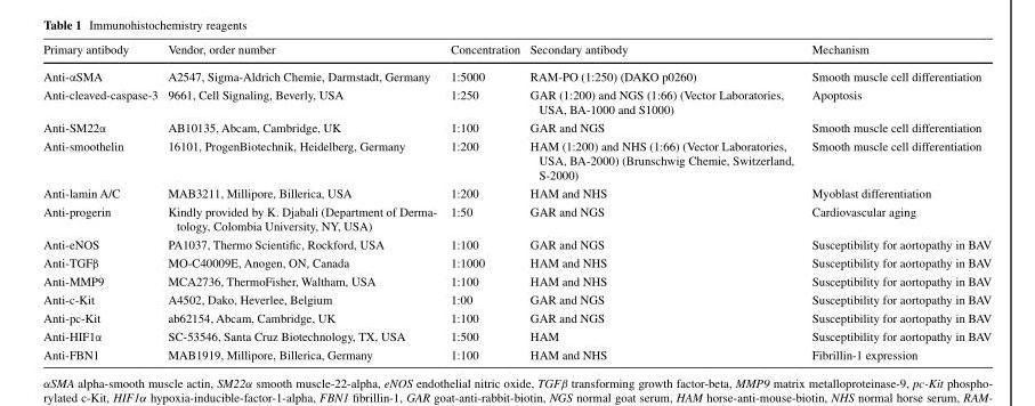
<table><thead><tr><td>Primary antibody</td><td>Vendor, order number</td><td>Concentration</td><td>Secondary antibody</td><td>Mechanism</td></tr></thead><tbody><tr><td>Anti-αSMA</td><td>A2547, Sigma-Aldrich Chemie, Darmstadt, Germany</td><td>1:5000</td><td>RAM-PO (1:250) (DAKO p0260)</td><td>Smooth muscle cell differentiation</td></tr><tr><td>Anti-cleaved-caspase-3</td><td>9661, Cell Signaling, Beverly, USA</td><td>1:250</td><td>GAR (1:200) and NGS (1:66) (Vector Laboratories, USA, BA-1000 and S1000)</td><td>Apoptosis</td></tr><tr><td>Anti-SM22α</td><td>AB10135, Abcam, Cambridge, UK</td><td>1:100</td><td>GAR and NGS</td><td>Smooth muscle cell differentiation</td></tr><tr><td>Anti-smoothelin</td><td>16101, ProgenBiotechnik, Heidelberg, Germany</td><td>1:200</td><td>HAM (1:200) and NHS (1:66) (Vector Laboratories, USA, BA-2000) (Brunschwig Chemie, Switzerland, S-2000)</td><td>Smooth muscle cell differentiation</td></tr><tr><td>Anti-lamin A/C</td><td>MAB3211, Millipore, Billerica, USA</td><td>1:200</td><td>HAM and NHS</td><td>Myoblast differentiation</td></tr><tr><td>Anti-progerin</td><td>Kindly provided by K. Djabali (Department of Derma- tology, Colombia University, NY, USA)</td><td>1:50</td><td>GAR and NGS</td><td>Cardiovascular aging</td></tr><tr><td>Anti-eNOS</td><td>PA1037, Thermo Scientific, Rockford, USA</td><td>1:100</td><td>GAR and NGS</td><td>Susceptibility for aortopathy in BAV</td></tr><tr><td>Anti-TGFβ</td><td>MO-C40009E, Anogen, ON, Canada</td><td>1:1000</td><td>HAM and NHS</td><td>Susceptibility for aortopathy in BAV</td></tr><tr><td>Anti-MMP9</td><td>MCA2736, ThermoFisher, Waltham, USA</td><td>1:100</td><td>HAM and NHS</td><td>Susceptibility for aortopathy in BAV</td></tr><tr><td>Anti-c-Kit</td><td>A4502, Dako, Heverlee, Belgium</td><td>1:00</td><td>GAR and NGS</td><td>Susceptibility for aortopathy in BAV</td></tr><tr><td>Anti-pc-Kit</td><td>ab62154, Abcam, Cambridge, UK</td><td>1:100</td><td>GAR and NGS</td><td>Susceptibility for aortopathy in BAV</td></tr><tr><td>Anti-HIF1α</td><td>SC-53546, Santa Cruz Biotechnology, TX, USA</td><td>1:500</td><td>HAM</td><td>Susceptibility for aortopathy in BAV</td></tr><tr><td>Anti-FBN1</td><td>MAB1919, Millipore, Billerica, Germany</td><td>1:100</td><td>HAM and NHS</td><td>Fibrillin-1 expression</td></tr></tbody></table>